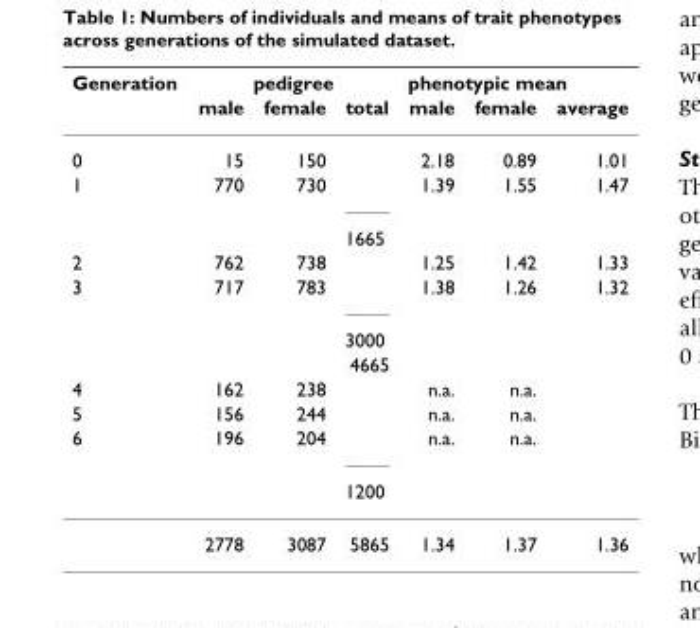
<table><thead><tr><td rowspan="2">Generation</td><td colspan="3">pedigree</td><td colspan="3">phenotypic mean</td></tr><tr><td>male</td><td>female</td><td>total</td><td>male</td><td>female</td><td>average</td></tr></thead><tbody><tr><td>0</td><td>15</td><td>150</td><td></td><td>2.18</td><td>0.89</td><td>1.01</td></tr><tr><td rowspan="2">1</td><td>770</td><td>730</td><td></td><td>1.39</td><td>1.55</td><td>1.47</td></tr><tr><td></td><td></td><td>1665</td><td></td><td></td><td></td></tr><tr><td>2</td><td>762</td><td>738</td><td></td><td>1.25</td><td>1.42</td><td>1.33</td></tr><tr><td rowspan="3">3</td><td>717</td><td>783</td><td></td><td>1.38</td><td>1.26</td><td>1.32</td></tr><tr><td></td><td></td><td>3000</td><td></td><td></td><td></td></tr><tr><td></td><td></td><td>4665</td><td></td><td></td><td></td></tr><tr><td>4</td><td>162</td><td>238</td><td></td><td>n.a.</td><td>n.a.</td><td></td></tr><tr><td>5</td><td>156</td><td>244</td><td></td><td>n.a.</td><td>n.a.</td><td></td></tr><tr><td rowspan="3">6</td><td>196</td><td>204</td><td></td><td>n.a.</td><td>n.a.</td><td></td></tr><tr><td></td><td></td><td>1200</td><td></td><td></td><td></td></tr><tr><td>2778</td><td>3087</td><td>5865</td><td>1.34</td><td>1.37</td><td>1.36</td></tr></tbody></table>